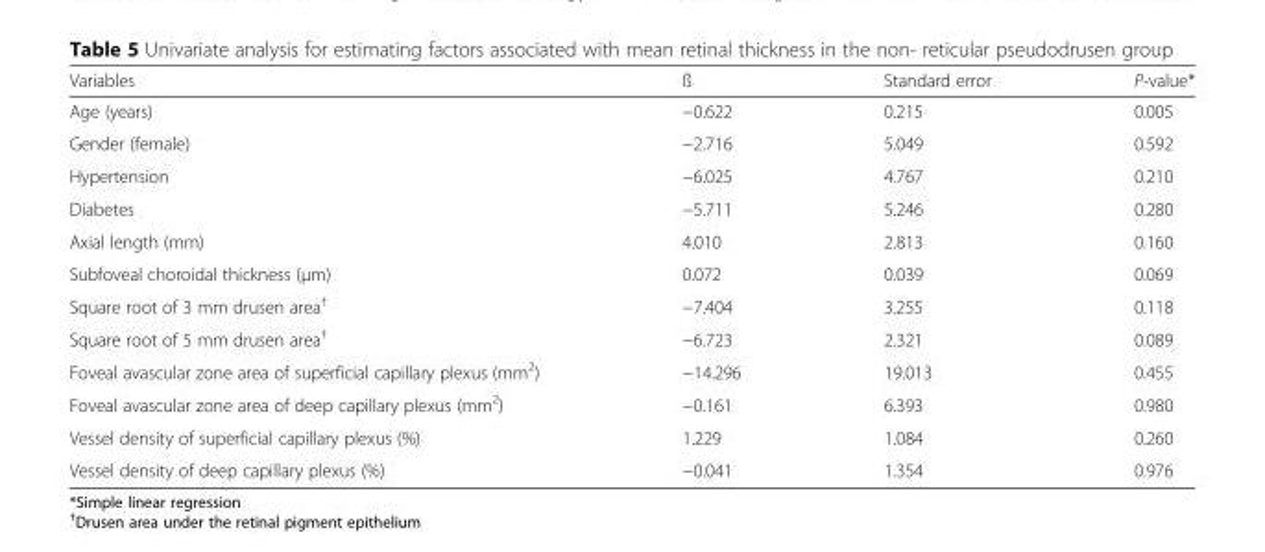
<table><thead><tr><td>Variables</td><td>ß</td><td>Standard error</td><td>P-value*</td></tr></thead><tbody><tr><td>Age (years)</td><td>−0.622</td><td>0.215</td><td>0.005</td></tr><tr><td>Gender (female)</td><td>−2.716</td><td>5.049</td><td>0.592</td></tr><tr><td>Hypertension</td><td>−6.025</td><td>4.767</td><td>0.210</td></tr><tr><td>Diabetes</td><td>−5.711</td><td>5.246</td><td>0.280</td></tr><tr><td>Axial length (mm)</td><td>4.010</td><td>2.813</td><td>0.160</td></tr><tr><td>Subfoveal choroidal thickness (μm)</td><td>0.072</td><td>0.039</td><td>0.069</td></tr><tr><td>Square root of 3 mm drusen area<sup>†</sup></td><td>−7.404</td><td>3.255</td><td>0.118</td></tr><tr><td>Square root of 5 mm drusen area<sup>†</sup></td><td>−6.723</td><td>2.321</td><td>0.089</td></tr><tr><td>Foveal avascular zone area of superficial capillary plexus (mm<sup>2</sup>)</td><td>−14.296</td><td>19.013</td><td>0.455</td></tr><tr><td>Foveal avascular zone area of deep capillary plexus (mm<sup>2</sup>)</td><td>−0.161</td><td>6.393</td><td>0.980</td></tr><tr><td>Vessel density of superficial capillary plexus (%)</td><td>1.229</td><td>1.084</td><td>0.260</td></tr><tr><td>Vessel density of deep capillary plexus (%)</td><td>−0.041</td><td>1.354</td><td>0.976</td></tr></tbody></table>